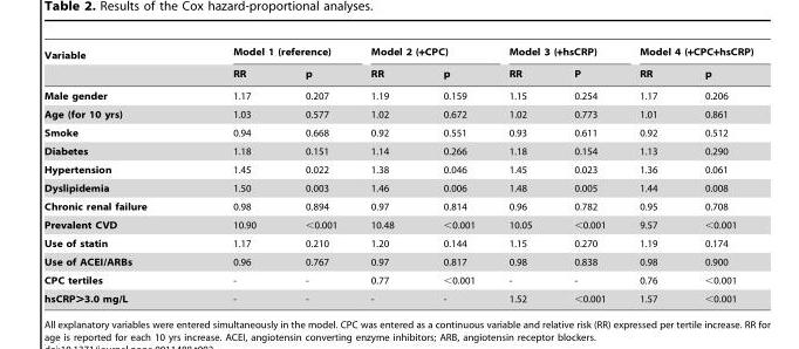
<table><thead><tr><td rowspan="2">Variable</td><td colspan="2">Model 1 (reference)</td><td colspan="2">Model 2 (+CPC)</td><td colspan="2">Model 3 (+hsCRP)</td><td colspan="2">Model 4 (+CPC+hsCRP)</td></tr><tr><td>RR</td><td>p</td><td>RR</td><td>p</td><td>RR</td><td>P</td><td>RR</td><td>p</td></tr></thead><tbody><tr><td>Male gender</td><td>1.17</td><td>0.207</td><td>1.19</td><td>0.159</td><td>1.15</td><td>0.254</td><td>1.17</td><td>0.206</td></tr><tr><td>Age (for 10 yrs)</td><td>1.03</td><td>0.577</td><td>1.02</td><td>0.672</td><td>1.02</td><td>0.773</td><td>1.01</td><td>0.861</td></tr><tr><td>Smoke</td><td>0.94</td><td>0.668</td><td>0.92</td><td>0.551</td><td>0.93</td><td>0.611</td><td>0.92</td><td>0.512</td></tr><tr><td>Diabetes</td><td>1.18</td><td>0.151</td><td>1.14</td><td>0.266</td><td>1.18</td><td>0.154</td><td>1.13</td><td>0.290</td></tr><tr><td>Hypertension</td><td>1.45</td><td>0.022</td><td>1.38</td><td>0.046</td><td>1.45</td><td>0.023</td><td>1.36</td><td>0.061</td></tr><tr><td>Dyslipidemia</td><td>1.50</td><td>0.003</td><td>1.46</td><td>0.006</td><td>1.48</td><td>0.005</td><td>1.44</td><td>0.008</td></tr><tr><td>Chronic renal failure</td><td>0.98</td><td>0.894</td><td>0.97</td><td>0.814</td><td>0.96</td><td>0.782</td><td>0.95</td><td>0.708</td></tr><tr><td>Prevalent CVD</td><td>10.90</td><td>&lt;0.001</td><td>10.48</td><td>&lt;0.001</td><td>10.05</td><td>&lt;0.001</td><td>9.57</td><td>&lt;0.001</td></tr><tr><td>Use of statin</td><td>1.17</td><td>0.210</td><td>1.20</td><td>0.144</td><td>1.15</td><td>0.270</td><td>1.19</td><td>0.174</td></tr><tr><td>Use of ACEI/ARBs</td><td>0.96</td><td>0.767</td><td>0.97</td><td>0.817</td><td>0.98</td><td>0.838</td><td>0.98</td><td>0.900</td></tr><tr><td>CPC tertiles</td><td>-</td><td>-</td><td>0.77</td><td>&lt;0.001</td><td>-</td><td>-</td><td>0.76</td><td>&lt;0.001</td></tr><tr><td>hsCRP&gt;3.0 mg/L</td><td>-</td><td>-</td><td>-</td><td>-</td><td>1.52</td><td>&lt;0.001</td><td>1.57</td><td>&lt;0.001</td></tr></tbody></table>